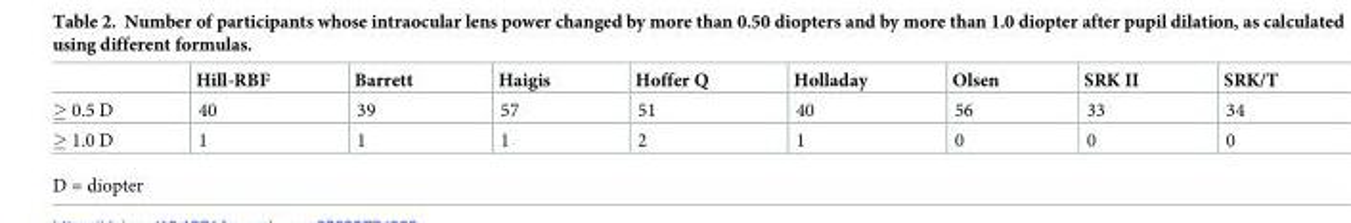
<table><thead><tr><td></td><td>Hill-RBF</td><td>Barrett</td><td>Haigis</td><td>Hoffer Q</td><td>Holladay</td><td>Olsen</td><td>SRK II</td><td>SRK/T</td></tr></thead><tbody><tr><td>0.5 D</td><td>40</td><td>39</td><td>57</td><td>51</td><td>40</td><td>56</td><td>33</td><td>34</td></tr><tr><td>1.0 D</td><td>1</td><td>1</td><td>1</td><td>2</td><td>1</td><td>0</td><td>0</td><td>0</td></tr></tbody></table>